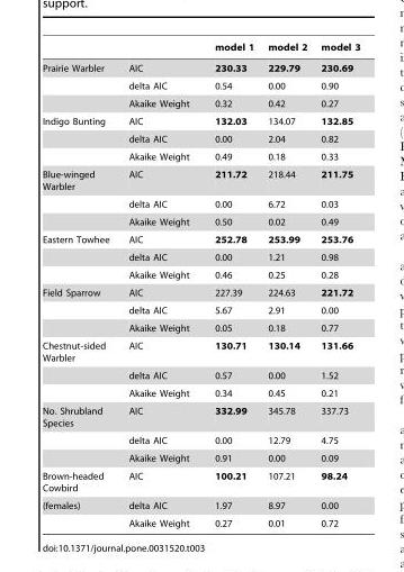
<table><thead><tr><td></td><td></td><td>model 1</td><td>model 2</td><td>model 3</td></tr></thead><tbody><tr><td rowspan="3">Prairie Warbler</td><td>AIC</td><td>230.33</td><td>229.79</td><td>230.69</td></tr><tr><td>delta AIC</td><td>0.54</td><td>0.00</td><td>0.90</td></tr><tr><td>Akaike Weight</td><td>0.32</td><td>0.42</td><td>0.27</td></tr><tr><td rowspan="3">Indigo Bunting</td><td>AIC</td><td>132.03</td><td>134.07</td><td>132.85</td></tr><tr><td>delta AIC</td><td>0.00</td><td>2.04</td><td>0.82</td></tr><tr><td>Akaike Weight</td><td>0.49</td><td>0.18</td><td>0.33</td></tr><tr><td rowspan="3">Blue-winged Warbler</td><td>AIC</td><td>211.72</td><td>218.44</td><td>211.75</td></tr><tr><td>delta AIC</td><td>0.00</td><td>6.72</td><td>0.03</td></tr><tr><td>Akaike Weight</td><td>0.50</td><td>0.02</td><td>0.49</td></tr><tr><td rowspan="3">Eastern Towhee</td><td>AIC</td><td>252.78</td><td>253.99</td><td>253.76</td></tr><tr><td>delta AIC</td><td>0.00</td><td>1.21</td><td>0.98</td></tr><tr><td>Akaike Weight</td><td>0.46</td><td>0.25</td><td>0.28</td></tr><tr><td rowspan="3">Field Sparrow</td><td>AIC</td><td>227.39</td><td>224.63</td><td>221.72</td></tr><tr><td>delta AIC</td><td>5.67</td><td>2.91</td><td>0.00</td></tr><tr><td>Akaike Weight</td><td>0.05</td><td>0.18</td><td>0.77</td></tr><tr><td rowspan="3">Chestnut-sided Warbler</td><td>AIC</td><td>130.71</td><td>130.14</td><td>131.66</td></tr><tr><td>delta AIC</td><td>0.57</td><td>0.00</td><td>1.52</td></tr><tr><td>Akaike Weight</td><td>0.34</td><td>0.45</td><td>0.21</td></tr><tr><td rowspan="3">No. Shrubland Species</td><td>AIC</td><td>332.99</td><td>345.78</td><td>337.73</td></tr><tr><td>delta AIC</td><td>0.00</td><td>12.79</td><td>4.75</td></tr><tr><td>Akaike Weight</td><td>0.91</td><td>0.00</td><td>0.09</td></tr><tr><td>Brown-headed Cowbird</td><td>AIC</td><td>100.21</td><td>107.21</td><td>98.24</td></tr><tr><td rowspan="2">(females)</td><td>delta AIC</td><td>1.97</td><td>8.97</td><td>0.00</td></tr><tr><td>Akaike Weight</td><td>0.27</td><td>0.01</td><td>0.72</td></tr></tbody></table>